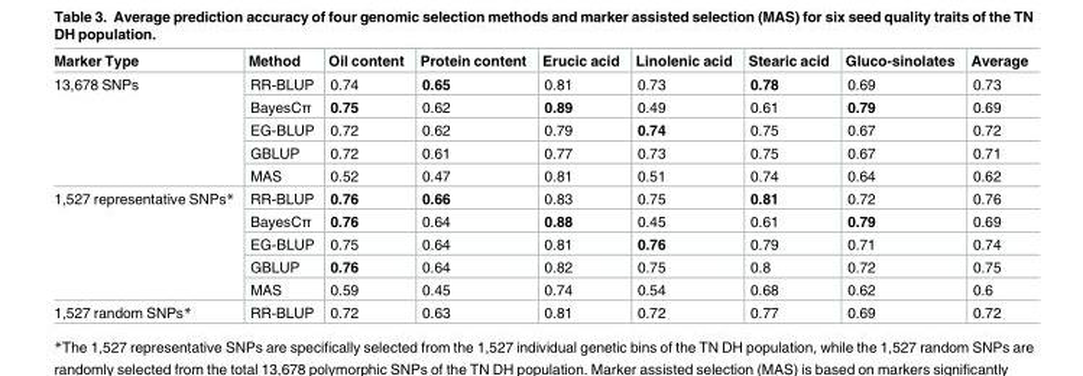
<table><thead><tr><td>Marker Type</td><td>Method</td><td>Oil content</td><td>Protein content</td><td>Erucic acid</td><td>Linolenic acid</td><td>Stearic acid</td><td>Gluco-sinolates</td><td>Average</td></tr></thead><tbody><tr><td rowspan="5">13,678 SNPs</td><td>RR-BLUP</td><td>0.74</td><td>0.65</td><td>0.81</td><td>0.73</td><td>0.78</td><td>0.69</td><td>0.73</td></tr><tr><td>BayesCπ</td><td>0.75</td><td>0.62</td><td>0.89</td><td>0.49</td><td>0.61</td><td>0.79</td><td>0.69</td></tr><tr><td>EG-BLUP</td><td>0.72</td><td>0.62</td><td>0.79</td><td>0.74</td><td>0.75</td><td>0.67</td><td>0.72</td></tr><tr><td>GBLUP</td><td>0.72</td><td>0.61</td><td>0.77</td><td>0.73</td><td>0.75</td><td>0.67</td><td>0.71</td></tr><tr><td>MAS</td><td>0.52</td><td>0.47</td><td>0.81</td><td>0.51</td><td>0.74</td><td>0.64</td><td>0.62</td></tr><tr><td rowspan="5">1,527 representative SNPs*</td><td>RR-BLUP</td><td>0.76</td><td>0.66</td><td>0.83</td><td>0.75</td><td>0.81</td><td>0.72</td><td>0.76</td></tr><tr><td>BayesCπ</td><td>0.76</td><td>0.64</td><td>0.88</td><td>0.45</td><td>0.61</td><td>0.79</td><td>0.69</td></tr><tr><td>EG-BLUP</td><td>0.75</td><td>0.64</td><td>0.81</td><td>0.76</td><td>0.79</td><td>0.71</td><td>0.74</td></tr><tr><td>GBLUP</td><td>0.76</td><td>0.64</td><td>0.82</td><td>0.75</td><td>0.8</td><td>0.72</td><td>0.75</td></tr><tr><td>MAS</td><td>0.59</td><td>0.45</td><td>0.74</td><td>0.54</td><td>0.68</td><td>0.62</td><td>0.6</td></tr><tr><td>1,527 random SNPs*</td><td>RR-BLUP</td><td>0.72</td><td>0.63</td><td>0.81</td><td>0.72</td><td>0.77</td><td>0.69</td><td>0.72</td></tr></tbody></table>